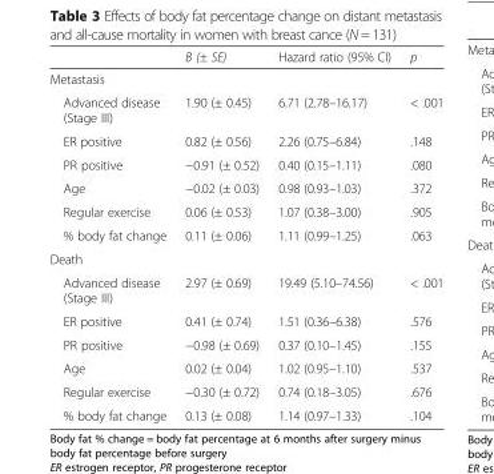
<table><thead><tr><td></td><td>B (± SE)</td><td>Hazard ratio (95% CI)</td><td>p</td></tr></thead><tbody><tr><td colspan="4">Metastasis</td></tr><tr><td>Advanced disease (Stage III)</td><td>1.90 (± 0.45)</td><td>6.71 (2.78–16.17)</td><td>&lt; .001</td></tr><tr><td>ER positive</td><td>0.82 (± 0.56)</td><td>2.26 (0.75–6.84)</td><td>.148</td></tr><tr><td>PR positive</td><td>−0.91 (± 0.52)</td><td>0.40 (0.15–1.11)</td><td>.080</td></tr><tr><td>Age</td><td>−0.02 (± 0.03)</td><td>0.98 (0.93–1.03)</td><td>.372</td></tr><tr><td>Regular exercise</td><td>0.06 (± 0.53)</td><td>1.07 (0.38–3.00)</td><td>.905</td></tr><tr><td>% body fat change</td><td>0.11 (± 0.06)</td><td>1.11 (0.99–1.25)</td><td>.063</td></tr><tr><td colspan="4">Death</td></tr><tr><td>Advanced disease (Stage III)</td><td>2.97 (± 0.69)</td><td>19.49 (5.10–74.56)</td><td>&lt; .001</td></tr><tr><td>ER positive</td><td>0.41 (± 0.74)</td><td>1.51 (0.36–6.38)</td><td>.576</td></tr><tr><td>PR positive</td><td>−0.98 (± 0.69)</td><td>0.37 (0.10–1.45)</td><td>.155</td></tr><tr><td>Age</td><td>0.02 (± 0.04)</td><td>1.02 (0.95–1.10)</td><td>.537</td></tr><tr><td>Regular exercise</td><td>−0.30 (± 0.72)</td><td>0.74 (0.18–3.05)</td><td>.676</td></tr><tr><td>% body fat change</td><td>0.13 (± 0.08)</td><td>1.14 (0.97–1.33)</td><td>.104</td></tr></tbody></table>